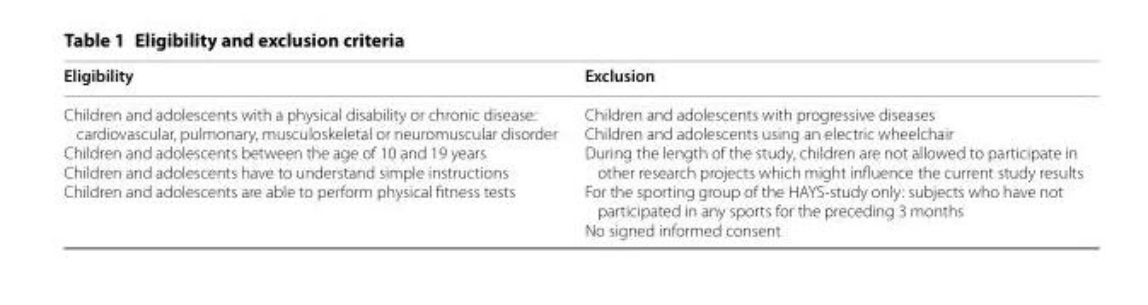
<table><thead><tr><td>Eligibility</td><td>Exclusion</td></tr></thead><tbody><tr><td>Children and adolescents with a physical disability or chronic disease: cardiovascular, pulmonary, musculoskeletal or neuromuscular disorder Children and adolescents between the age of 10 and 19 years Children and adolescents have to understand simple instructions Children and adolescents are able to perform physical fitness tests</td><td>Children and adolescents with progressive diseases Children and adolescents using an electric wheelchair During the length of the study, children are not allowed to participate in other research projects which might influence the current study results For the sporting group of the HAYS‑study only: subjects who have not participated in any sports for the preceding 3 months No signed informed consent</td></tr></tbody></table>